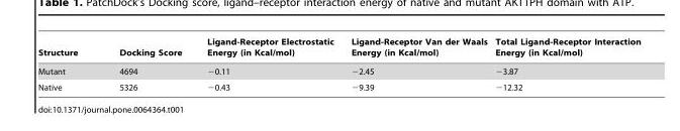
<table><thead><tr><td>Structure</td><td>Docking Score</td><td>Ligand-Receptor Electrostatic Energy (in Kcal/mol)</td><td>Ligand-Receptor Van der Waals Energy (in Kcal/mol)</td><td>Total Ligand-Receptor Interaction Energy (in Kcal/mol)</td></tr></thead><tbody><tr><td>Mutant</td><td>4694</td><td>−0.11</td><td>−2.45</td><td>−3.87</td></tr><tr><td>Native</td><td>5326</td><td>−0.43</td><td>−9.39</td><td>−12.32</td></tr></tbody></table>